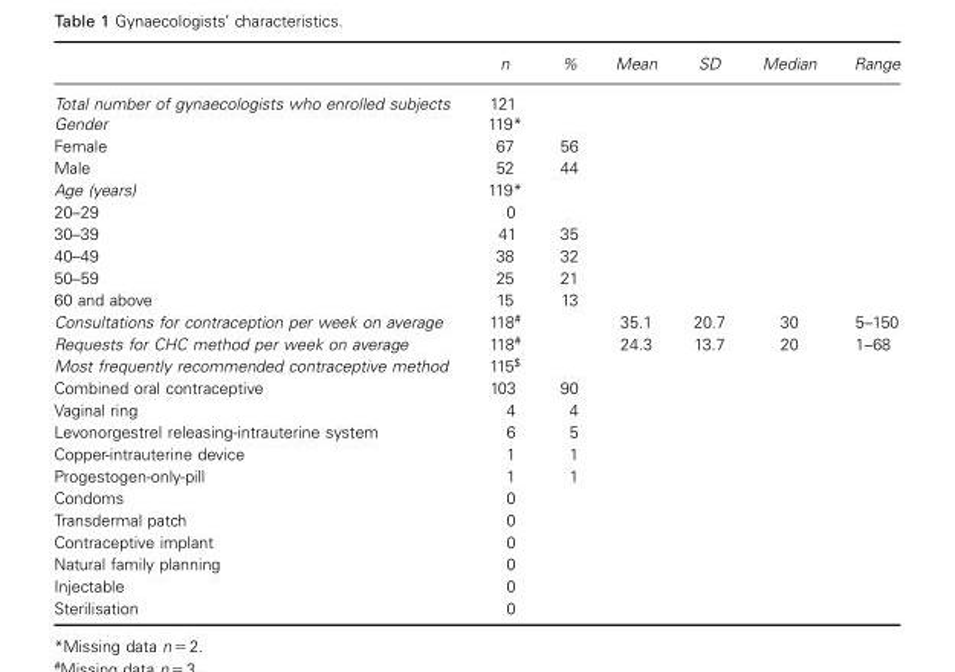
<table><thead><tr><td></td><td>n</td><td>%</td><td>Mean</td><td>SD</td><td>Median</td><td>Range</td></tr></thead><tbody><tr><td>Total number of gynaecologists who enrolled subjects</td><td>121</td><td></td><td></td><td></td><td></td><td></td></tr><tr><td>Gender</td><td>119 *</td><td></td><td></td><td></td><td></td><td></td></tr><tr><td>Female</td><td>67</td><td>56</td><td></td><td></td><td></td><td></td></tr><tr><td>Male</td><td>52</td><td>44</td><td></td><td></td><td></td><td></td></tr><tr><td>Age (years)</td><td>119 *</td><td></td><td></td><td></td><td></td><td></td></tr><tr><td>20 – 29</td><td>0</td><td></td><td></td><td></td><td></td><td></td></tr><tr><td>30 – 39</td><td>41</td><td>35</td><td></td><td></td><td></td><td></td></tr><tr><td>40 – 49</td><td>38</td><td>32</td><td></td><td></td><td></td><td></td></tr><tr><td>50 – 59</td><td>25</td><td>21</td><td></td><td></td><td></td><td></td></tr><tr><td>60 and above</td><td>15</td><td>13</td><td></td><td></td><td></td><td></td></tr><tr><td>Consultations for contraception per week on average</td><td>118 #</td><td></td><td>35.1</td><td>20.7</td><td>30</td><td>5 – 150</td></tr><tr><td>Requests for CHC method per week on average</td><td>118 #</td><td></td><td>24.3</td><td>13.7</td><td>20</td><td>1 – 68</td></tr><tr><td>Most frequently recommended contraceptive method</td><td>115 $</td><td></td><td></td><td></td><td></td><td></td></tr><tr><td>Combined oral contraceptive</td><td>103</td><td>90</td><td></td><td></td><td></td><td></td></tr><tr><td>Vaginal ring</td><td>4</td><td>4</td><td></td><td></td><td></td><td></td></tr><tr><td>Levonorgestrel releasing-intrauterine system</td><td>6</td><td>5</td><td></td><td></td><td></td><td></td></tr><tr><td>Copper-intrauterine device</td><td>1</td><td>1</td><td></td><td></td><td></td><td></td></tr><tr><td>Progestogen-only-pill</td><td>1</td><td>1</td><td></td><td></td><td></td><td></td></tr><tr><td>Condoms</td><td>0</td><td></td><td></td><td></td><td></td><td></td></tr><tr><td>Transdermal patch</td><td>0</td><td></td><td></td><td></td><td></td><td></td></tr><tr><td>Contraceptive implant</td><td>0</td><td></td><td></td><td></td><td></td><td></td></tr><tr><td>Natural family planning</td><td>0</td><td></td><td></td><td></td><td></td><td></td></tr><tr><td>Injectable</td><td>0</td><td></td><td></td><td></td><td></td><td></td></tr><tr><td>Sterilisation</td><td>0</td><td></td><td></td><td></td><td></td><td></td></tr></tbody></table>